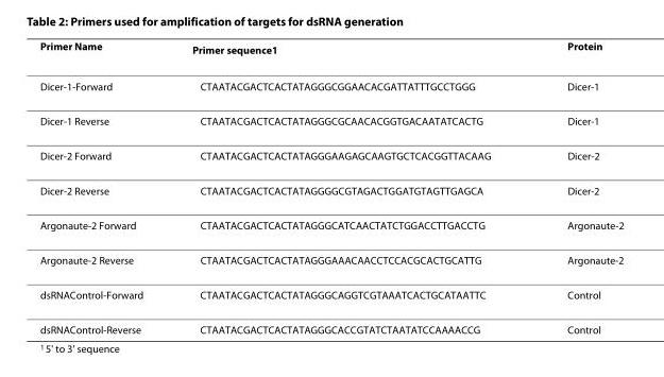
<table><thead><tr><td>Primer Name</td><td>Primer sequence<sup>1</sup></td><td>Protein</td></tr></thead><tbody><tr><td>Dicer-1-Forward</td><td>CTAATACGACTCACTATAGGGCGGAACACGATTATTTGCCTGGG</td><td>Dicer-1</td></tr><tr><td>Dicer-1 Reverse</td><td>CTAATACGACTCACTATAGGGCGCAACACGGTGACAATATCACTG</td><td>Dicer-1</td></tr><tr><td>Dicer-2 Forward</td><td>CTAATACGACTCACTATAGGGAAGAGCAAGTGCTCACGGTTACAAG</td><td>Dicer-2</td></tr><tr><td>Dicer-2 Reverse</td><td>CTAATACGACTCACTATAGGGGCGTAGACTGGATGTAGTTGAGCA</td><td>Dicer-2</td></tr><tr><td>Argonaute-2 Forward</td><td>CTAATACGACTCACTATAGGGCATCAACTATCTGGACCTTGACCTG</td><td>Argonaute-2</td></tr><tr><td>Argonaute-2 Reverse</td><td>CTAATACGACTCACTATAGGGAAACAACCTCCACGCACTGCATTG</td><td>Argonaute-2</td></tr><tr><td>dsRNAControl-Forward</td><td>CTAATACGACTCACTATAGGGCAGGTCGTAAATCACTGCATAATTC</td><td>Control</td></tr><tr><td>dsRNAControl-Reverse</td><td>CTAATACGACTCACTATAGGGCACCGTATCTAATATCCAAAACCG</td><td>Control</td></tr></tbody></table>